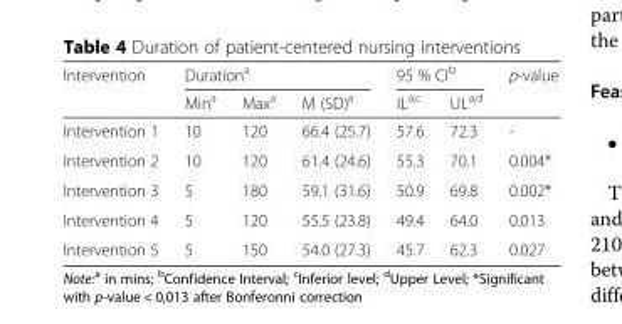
<table><thead><tr><td rowspan="2">Intervention</td><td colspan="3">Duration<sup>a</sup></td><td colspan="2">95 % CI<sup>b</sup></td><td rowspan="2">p-value</td></tr><tr><td>Min<sup>a</sup></td><td>Max<sup>a</sup></td><td>M (SD)<sup>a</sup></td><td>IL<sup>a,c</sup></td><td>UL<sup>a,d</sup></td></tr></thead><tbody><tr><td>Intervention 1</td><td>10</td><td>120</td><td>66.4 (25.7)</td><td>57.6</td><td>72.3</td><td>-</td></tr><tr><td>Intervention 2</td><td>10</td><td>120</td><td>61.4 (24.6)</td><td>55.3</td><td>70.1</td><td>0.004*</td></tr><tr><td>Intervention 3</td><td>5</td><td>180</td><td>59.1 (31.6)</td><td>50.9</td><td>69.8</td><td>0.002*</td></tr><tr><td>Intervention 4</td><td>5</td><td>120</td><td>55.5 (23.8)</td><td>49.4</td><td>64.0</td><td>0.013</td></tr><tr><td>Intervention 5</td><td>5</td><td>150</td><td>54.0 (27.3)</td><td>45.7</td><td>62.3</td><td>0.027</td></tr></tbody></table>